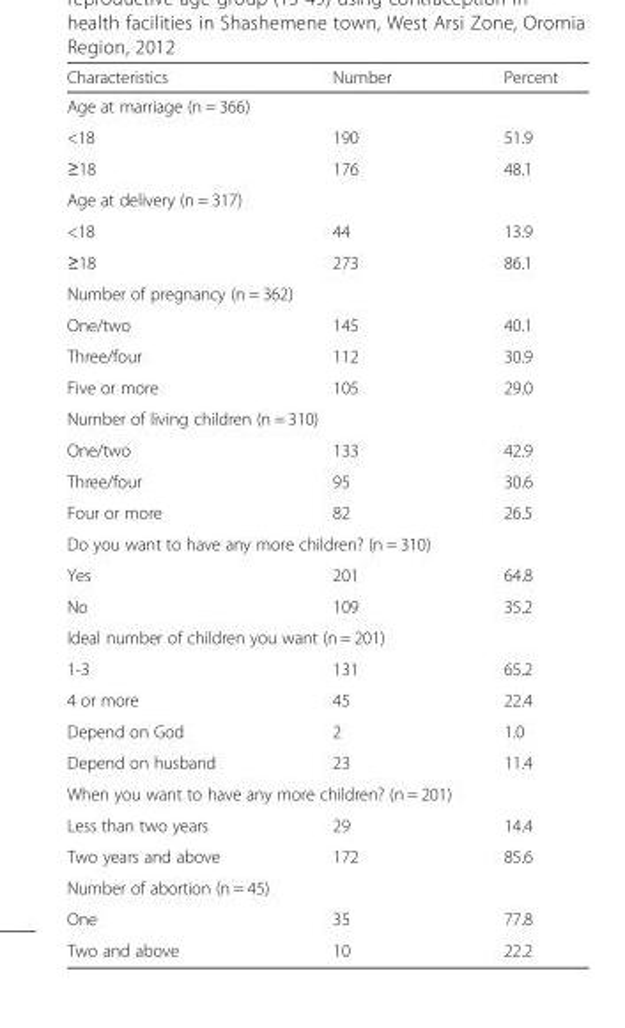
<table><thead><tr><td>Characteristics</td><td>Number</td><td>Percent</td></tr></thead><tbody><tr><td colspan="3">Age at marriage (n = 366)</td></tr><tr><td>&lt;18</td><td>190</td><td>51.9</td></tr><tr><td>≥18</td><td>176</td><td>48.1</td></tr><tr><td colspan="3">Age at delivery (n = 317)</td></tr><tr><td>&lt;18</td><td>44</td><td>13.9</td></tr><tr><td>≥18</td><td>273</td><td>86.1</td></tr><tr><td colspan="3">Number of pregnancy (n = 362)</td></tr><tr><td>One/two</td><td>145</td><td>40.1</td></tr><tr><td>Three/four</td><td>112</td><td>30.9</td></tr><tr><td>Five or more</td><td>105</td><td>29.0</td></tr><tr><td colspan="3">Number of living children (n = 310)</td></tr><tr><td>One/two</td><td>133</td><td>42.9</td></tr><tr><td>Three/four</td><td>95</td><td>30.6</td></tr><tr><td>Four or more</td><td>82</td><td>26.5</td></tr><tr><td colspan="3">Do you want to have any more children? (n = 310)</td></tr><tr><td>Yes</td><td>201</td><td>64.8</td></tr><tr><td>No</td><td>109</td><td>35.2</td></tr><tr><td colspan="3">Ideal number of children you want (n = 201)</td></tr><tr><td>1-3</td><td>131</td><td>65.2</td></tr><tr><td>4 or more</td><td>45</td><td>22.4</td></tr><tr><td>Depend on God</td><td>2</td><td>1.0</td></tr><tr><td>Depend on husband</td><td>23</td><td>11.4</td></tr><tr><td colspan="3">When you want to have any more children? (n = 201)</td></tr><tr><td>Less than two years</td><td>29</td><td>14.4</td></tr><tr><td>Two years and above</td><td>172</td><td>85.6</td></tr><tr><td colspan="3">Number of abortion (n = 45)</td></tr><tr><td>One</td><td>35</td><td>77.8</td></tr><tr><td>Two and above</td><td>10</td><td>22.2</td></tr></tbody></table>